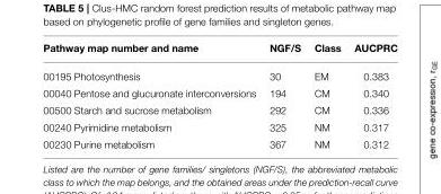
<table><thead><tr><td>Pathway map number and name</td><td>NGF/S</td><td>Class</td><td>AUCPRC</td></tr></thead><tbody><tr><td>00195 Photosynthesis</td><td>30</td><td>EM</td><td>0.383</td></tr><tr><td>00040 Pentose and glucuronate interconversions</td><td>194</td><td>CM</td><td>0.340</td></tr><tr><td>00500 Starch and sucrose metabolism</td><td>292</td><td>CM</td><td>0.336</td></tr><tr><td>00240 Pyrimidine metabolism</td><td>325</td><td>NM</td><td>0.317</td></tr><tr><td>00230 Purine metabolism</td><td>367</td><td>NM</td><td>0.312</td></tr></tbody></table>